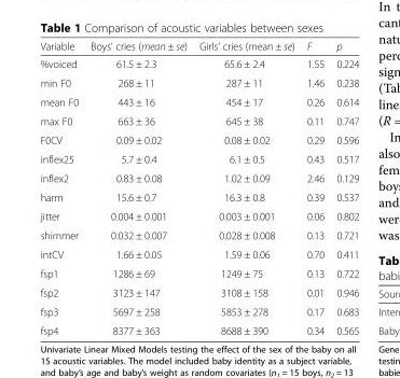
<table><thead><tr><td>Variable</td><td>Boys’ cries (mean ± se)</td><td>Girls’ cries (mean ± se)</td><td>F</td><td>p</td></tr></thead><tbody><tr><td>%voiced</td><td>61.5 ± 2.3</td><td>65.6 ± 2.4</td><td>1.55</td><td>0.224</td></tr><tr><td>min F0</td><td>268 ± 11</td><td>287 ± 11</td><td>1.46</td><td>0.238</td></tr><tr><td>mean F0</td><td>443 ± 16</td><td>454 ± 17</td><td>0.26</td><td>0.614</td></tr><tr><td>max F0</td><td>663 ± 36</td><td>645 ± 38</td><td>0.11</td><td>0.747</td></tr><tr><td>F0CV</td><td>0.09 ± 0.02</td><td>0.08 ± 0.02</td><td>0.29</td><td>0.596</td></tr><tr><td>inflex25</td><td>5.7 ± 0.4</td><td>6.1 ± 0.5</td><td>0.43</td><td>0.517</td></tr><tr><td>inflex2</td><td>0.83 ± 0.08</td><td>1.02 ± 0.09</td><td>2.46</td><td>0.129</td></tr><tr><td>harm</td><td>15.6 ± 0.7</td><td>16.3 ± 0.8</td><td>0.39</td><td>0.537</td></tr><tr><td>jitter</td><td>0.004 ± 0.001</td><td>0.003 ± 0.001</td><td>0.06</td><td>0.802</td></tr><tr><td>shimmer</td><td>0.032 ± 0.007</td><td>0.028 ± 0.008</td><td>0.13</td><td>0.721</td></tr><tr><td>intCV</td><td>1.66 ± 0.05</td><td>1.59 ± 0.06</td><td>0.70</td><td>0.411</td></tr><tr><td>fsp1</td><td>1286 ± 69</td><td>1249 ± 75</td><td>0.13</td><td>0.722</td></tr><tr><td>fsp2</td><td>3123 ± 147</td><td>3108 ± 158</td><td>0.01</td><td>0.946</td></tr><tr><td>fsp3</td><td>5697 ± 258</td><td>5853 ± 278</td><td>0.17</td><td>0.683</td></tr><tr><td>fsp4</td><td>8377 ± 363</td><td>8688 ± 390</td><td>0.34</td><td>0.565</td></tr></tbody></table>